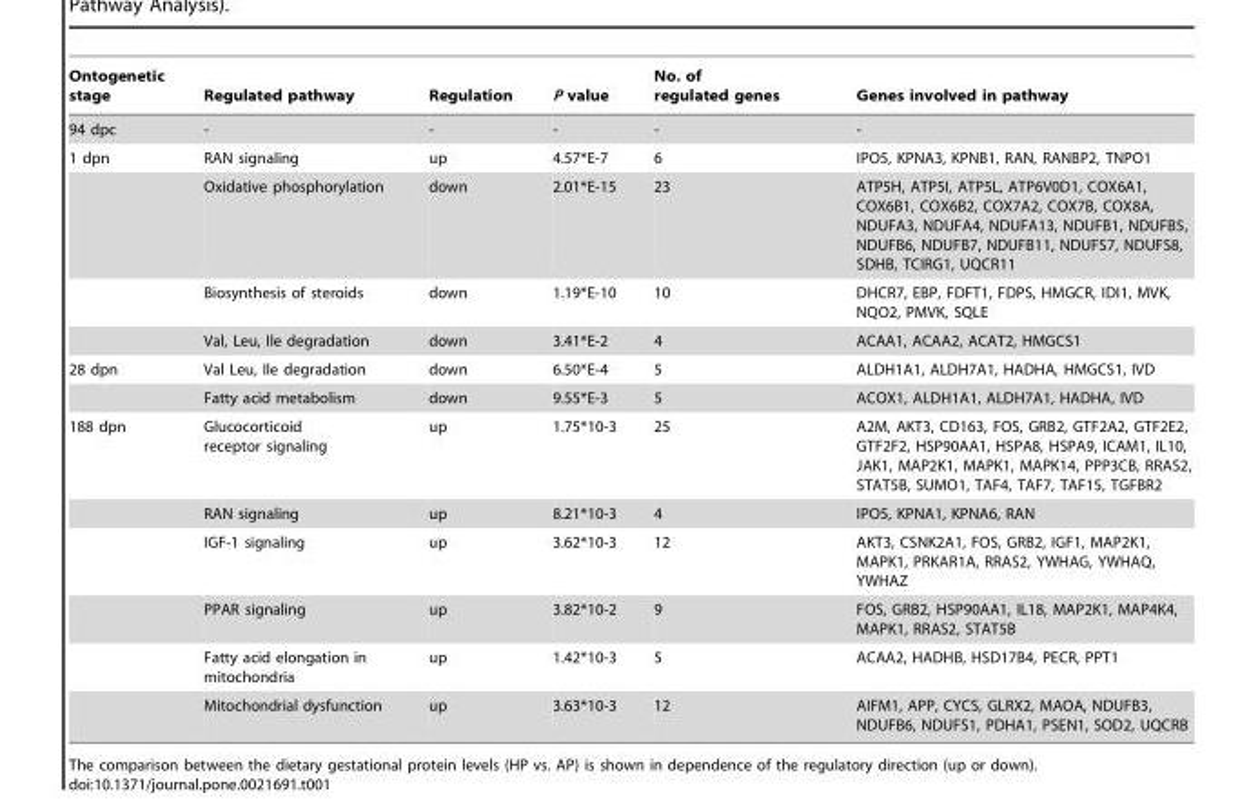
<table><thead><tr><td>Ontogenetic stage</td><td>Regulated pathway</td><td>Regulation</td><td>P value</td><td>No. of regulated genes</td><td>Genes involved in pathway</td></tr></thead><tbody><tr><td>94 dpc</td><td>-</td><td>-</td><td>-</td><td>-</td><td>-</td></tr><tr><td rowspan="4">1 dpn</td><td>RAN signaling</td><td>up</td><td>4.57*E-7</td><td>6</td><td>IPO5, KPNA3, KPNB1, RAN, RANBP2, TNPO1</td></tr><tr><td>Oxidative phosphorylation</td><td>down</td><td>2.01*E-15</td><td>23</td><td>ATP5H, ATP5I, ATP5L, ATP6V0D1, COX6A1, COX6B1, COX6B2, COX7A2, COX7B, COX8A, NDUFA3, NDUFA4, NDUFA13, NDUFB1, NDUFB5, NDUFB6, NDUFB7, NDUFB11, NDUFS7, NDUFS8, SDHB, TCIRG1, UQCR11</td></tr><tr><td>Biosynthesis of steroids</td><td>down</td><td>1.19*E-10</td><td>10</td><td>DHCR7, EBP, FDFT1, FDPS, HMGCR, IDI1, MVK, NQO2, PMVK, SQLE</td></tr><tr><td>Val, Leu, Ile degradation</td><td>down</td><td>3.41*E-2</td><td>4</td><td>ACAA1, ACAA2, ACAT2, HMGCS1</td></tr><tr><td rowspan="2">28 dpn</td><td>Val Leu, Ile degradation</td><td>down</td><td>6.50*E-4</td><td>5</td><td>ALDH1A1, ALDH7A1, HADHA, HMGCS1, IVD</td></tr><tr><td>Fatty acid metabolism</td><td>down</td><td>9.55*E-3</td><td>5</td><td>ACOX1, ALDH1A1, ALDH7A1, HADHA, IVD</td></tr><tr><td rowspan="6">188 dpn</td><td>Glucocorticoid receptor signaling</td><td>up</td><td>1.75*10-3</td><td>25</td><td>A2M, AKT3, CD163, FOS, GRB2, GTF2A2, GTF2E2, GTF2F2, HSP90AA1, HSPA8, HSPA9, ICAM1, IL10, JAK1, MAP2K1, MAPK1, MAPK14, PPP3CB, RRAS2, STAT5B, SUMO1, TAF4, TAF7, TAF15, TGFBR2</td></tr><tr><td>RAN signaling</td><td>up</td><td>8.21*10-3</td><td>4</td><td>IPO5, KPNA1, KPNA6, RAN</td></tr><tr><td>IGF-1 signaling</td><td>up</td><td>3.62*10-3</td><td>12</td><td>AKT3, CSNK2A1, FOS, GRB2, IGF1, MAP2K1, MAPK1, PRKAR1A, RRAS2, YWHAG, YWHAQ, YWHAZ</td></tr><tr><td>PPAR signaling</td><td>up</td><td>3.82*10-2</td><td>9</td><td>FOS, GRB2, HSP90AA1, IL18, MAP2K1, MAP4K4, MAPK1, RRAS2, STAT5B</td></tr><tr><td>Fatty acid elongation in mitochondria</td><td>up</td><td>1.42*10-3</td><td>5</td><td>ACAA2, HADHB, HSD17B4, PECR, PPT1</td></tr><tr><td>Mitochondrial dysfunction</td><td>up</td><td>3.63*10-3</td><td>12</td><td>AIFM1, APP, CYCS, GLRX2, MAOA, NDUFB3, NDUFB6, NDUFS1, PDHA1, PSEN1, SOD2, UQCRB</td></tr></tbody></table>